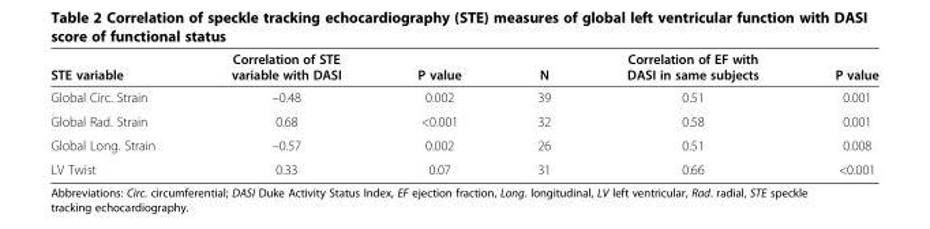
<table><thead><tr><td>STE variable</td><td>Correlation of STE variable with DASI</td><td>P value</td><td>N</td><td>Correlation of EF with DASI in same subjects</td><td>P value</td></tr></thead><tbody><tr><td>Global Circ. Strain</td><td>–0.48</td><td>0.002</td><td>39</td><td>0.51</td><td>0.001</td></tr><tr><td>Global Rad. Strain</td><td>0.68</td><td>&lt;0.001</td><td>32</td><td>0.58</td><td>0.001</td></tr><tr><td>Global Long. Strain</td><td>–0.57</td><td>0.002</td><td>26</td><td>0.51</td><td>0.008</td></tr><tr><td>LV Twist</td><td>0.33</td><td>0.07</td><td>31</td><td>0.66</td><td>&lt;0.001</td></tr></tbody></table>